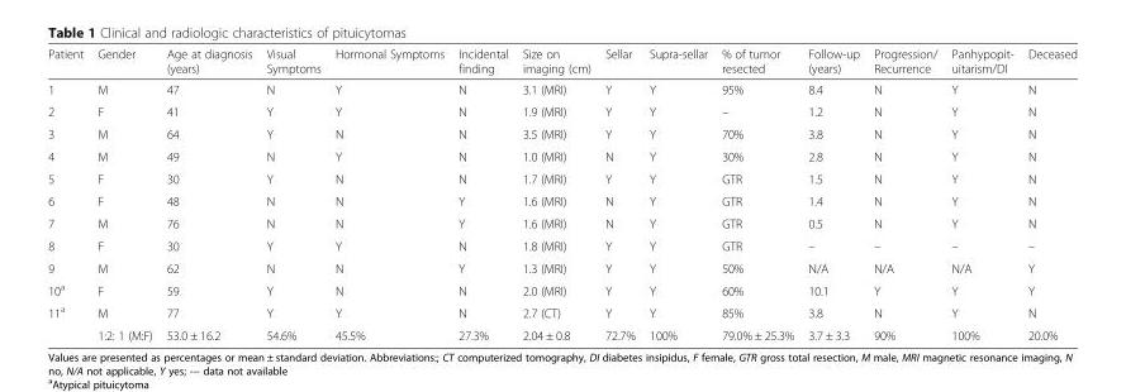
<table><thead><tr><td>Patient</td><td>Gender</td><td>Age at diagnosis (years)</td><td>Visual Symptoms</td><td>Hormonal Symptoms</td><td>Incidental finding</td><td>Size on imaging (cm)</td><td>Sellar</td><td>Supra-sellar</td><td>% of tumor resected</td><td>Follow-up (years)</td><td>Progression/ Recurrence</td><td>Panhypopit- uitarism/DI</td><td>Deceased</td></tr></thead><tbody><tr><td>1</td><td>M</td><td>47</td><td>N</td><td>Y</td><td>N</td><td>3.1 (MRI)</td><td>Y</td><td>Y</td><td>95%</td><td>8.4</td><td>N</td><td>Y</td><td>N</td></tr><tr><td>2</td><td>F</td><td>41</td><td>Y</td><td>Y</td><td>N</td><td>1.9 (MRI)</td><td>Y</td><td>Y</td><td>–</td><td>1.2</td><td>N</td><td>Y</td><td>N</td></tr><tr><td>3</td><td>M</td><td>64</td><td>Y</td><td>N</td><td>N</td><td>3.5 (MRI)</td><td>Y</td><td>Y</td><td>70%</td><td>3.8</td><td>N</td><td>Y</td><td>N</td></tr><tr><td>4</td><td>M</td><td>49</td><td>N</td><td>Y</td><td>N</td><td>1.0 (MRI)</td><td>N</td><td>Y</td><td>30%</td><td>2.8</td><td>N</td><td>Y</td><td>N</td></tr><tr><td>5</td><td>F</td><td>30</td><td>Y</td><td>N</td><td>N</td><td>1.7 (MRI)</td><td>Y</td><td>Y</td><td>GTR</td><td>1.5</td><td>N</td><td>Y</td><td>N</td></tr><tr><td>6</td><td>F</td><td>48</td><td>N</td><td>N</td><td>Y</td><td>1.6 (MRI)</td><td>N</td><td>Y</td><td>GTR</td><td>1.4</td><td>N</td><td>Y</td><td>N</td></tr><tr><td>7</td><td>M</td><td>76</td><td>N</td><td>N</td><td>Y</td><td>1.6 (MRI)</td><td>N</td><td>Y</td><td>GTR</td><td>0.5</td><td>N</td><td>Y</td><td>N</td></tr><tr><td>8</td><td>F</td><td>30</td><td>Y</td><td>Y</td><td>N</td><td>1.8 (MRI)</td><td>Y</td><td>Y</td><td>GTR</td><td>–</td><td>–</td><td>–</td><td>–</td></tr><tr><td>9</td><td>M</td><td>62</td><td>N</td><td>N</td><td>Y</td><td>1.3 (MRI)</td><td>Y</td><td>Y</td><td>50%</td><td>N/A</td><td>N/A</td><td>N/A</td><td>Y</td></tr><tr><td>10<sup>a</sup></td><td>F</td><td>59</td><td>Y</td><td>N</td><td>N</td><td>2.0 (MRI)</td><td>Y</td><td>Y</td><td>60%</td><td>10.1</td><td>Y</td><td>Y</td><td>Y</td></tr><tr><td rowspan="2">11<sup>a</sup></td><td>M</td><td>77</td><td>Y</td><td>Y</td><td>N</td><td>2.7 (CT)</td><td>Y</td><td>Y</td><td>85%</td><td>3.8</td><td>N</td><td>Y</td><td>N</td></tr><tr><td>1:2: 1 (M:F)</td><td>53.0 ± 16.2</td><td>54.6%</td><td>45.5%</td><td>27.3%</td><td>2.04 ± 0.8</td><td>72.7%</td><td>100%</td><td>79.0% ± 25.3%</td><td>3.7 ± 3.3</td><td>90%</td><td>100%</td><td>20.0%</td></tr></tbody></table>